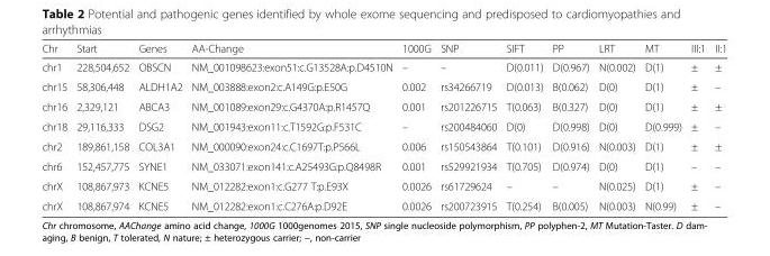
<table><thead><tr><td>Chr</td><td>Start</td><td>Genes</td><td>AA-Change</td><td>1000G</td><td>SNP</td><td>SIFT</td><td>PP</td><td>LRT</td><td>MT</td><td>III:1</td><td>II:1</td></tr></thead><tbody><tr><td>chr1</td><td>228,504,652</td><td>OBSCN</td><td>NM_001098623:exon51:c.G13528A:p.D4510N</td><td>–</td><td>–</td><td>D(0.011)</td><td>D(0.967)</td><td>N(0.002)</td><td>D(1)</td><td>±</td><td>±</td></tr><tr><td>chr15</td><td>58,306,448</td><td>ALDH1A2</td><td>NM_003888:exon2:c.A149G:p.E50G</td><td>0.002</td><td>rs34266719</td><td>D(0.013)</td><td>B(0.062)</td><td>D(0)</td><td>D(1)</td><td>±</td><td>–</td></tr><tr><td>chr16</td><td>2,329,121</td><td>ABCA3</td><td>NM_001089:exon29:c.G4370A:p.R1457Q</td><td>0.001</td><td>rs201226715</td><td>T(0.063)</td><td>B(0.327)</td><td>D(0)</td><td>D(1)</td><td>±</td><td>±</td></tr><tr><td>chr18</td><td>29,116,333</td><td>DSG2</td><td>NM_001943:exon11:c.T1592G:p.F531C</td><td>–</td><td>rs200484060</td><td>D(0)</td><td>D(0.998)</td><td>D(0)</td><td>D(0.999)</td><td>±</td><td>–</td></tr><tr><td>chr2</td><td>189,861,158</td><td>COL3A1</td><td>NM_000090:exon24:c.C1697T:p.P566L</td><td>0.006</td><td>rs150543864</td><td>T(0.101)</td><td>D(0.916)</td><td>N(0.003)</td><td>D(1)</td><td>±</td><td>±</td></tr><tr><td>chr6</td><td>152,457,775</td><td>SYNE1</td><td>NM_033071:exon141:c.A25493G:p.Q8498R</td><td>0.001</td><td>rs529921934</td><td>T(0.705)</td><td>D(0.974)</td><td>D(0)</td><td>D(1)</td><td>–</td><td>–</td></tr><tr><td>chrX</td><td>108,867,973</td><td>KCNE5</td><td>NM_012282:exon1:c.G277 T:p.E93X</td><td>0.0026</td><td>rs61729624</td><td>–</td><td>–</td><td>N(0.025)</td><td>D(1)</td><td>±</td><td>–</td></tr><tr><td>chrX</td><td>108,867,974</td><td>KCNE5</td><td>NM_012282:exon1:c.C276A:p.D92E</td><td>0.0026</td><td>rs200723915</td><td>T(0.254)</td><td>B(0.005)</td><td>N(0.003)</td><td>N(0.99)</td><td>±</td><td>–</td></tr></tbody></table>